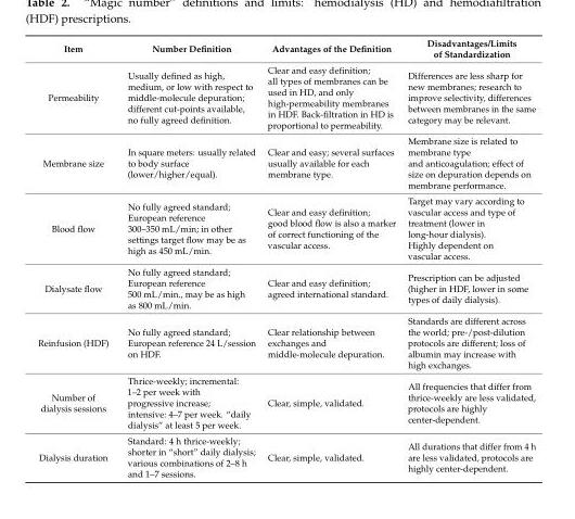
<table><thead><tr><td>Item</td><td>Number Definition</td><td>Advantages of the Definition</td><td>Disadvantages/Limits of Standardization</td></tr></thead><tbody><tr><td>Permeability</td><td>Usually defined as high, medium, or low with respect to middle-molecule depuration; different cut-points available, no fully agreed definition.</td><td>Clear and easy definition; all types of membranes can be used in HD, and only high-permeability membranes in HDF. Back-filtration in HD is proportional to permeability.</td><td>Differences are less sharp for new membranes; research to improve selectivity, differences between membranes in the same category may be relevant.</td></tr><tr><td>Membrane size</td><td>In square meters: usually related to body surface (lower/higher/equal).</td><td>Clear and easy; several surfaces usually available for each membrane type.</td><td>Membrane size is related to membrane type and anticoagulation; effect of size on depuration depends on membrane performance.</td></tr><tr><td>Blood flow</td><td>No fully agreed standard; European reference 300–350 mL/min; in other settings target flow may be as high as 450 mL/min.</td><td>Clear and easy definition; good blood flow is also a marker of correct functioning of the vascular access.</td><td>Target may vary according to vascular access and type of treatment (lower in long-hour dialysis). Highly dependent on vascular access.</td></tr><tr><td>Dialysate flow</td><td>No fully agreed standard; European reference 500 mL/min., may be as high as 800 mL/min.</td><td>Clear and easy definition; agreed international standard.</td><td>Prescription can be adjusted (higher in HDF, lower in some types of daily dialysis).</td></tr><tr><td>Reinfusion (HDF)</td><td>No fully agreed standard; European reference 24 L/session on HDF.</td><td>Clear relationship between exchanges and middle-molecule depuration.</td><td>Standards are different across the world; pre-/post-dilution protocols are different; loss of albumin may increase with high exchanges.</td></tr><tr><td>Number of dialysis sessions</td><td>Thrice-weekly; incremental: 1–2 per week with progressive increase; intensive: 4–7 per week. “daily dialysis” at least 5 per week.</td><td>Clear, simple, validated.</td><td>All frequencies that differ from thrice-weekly are less validated, protocols are highly center-dependent.</td></tr><tr><td>Dialysis duration</td><td>Standard: 4 h thrice-weekly; shorter in “short” daily dialysis; various combinations of 2–8 h and 1–7 sessions.</td><td>Clear, simple, validated.</td><td>All durations that differ from 4 h are less validated, protocols are highly center-dependent.</td></tr></tbody></table>